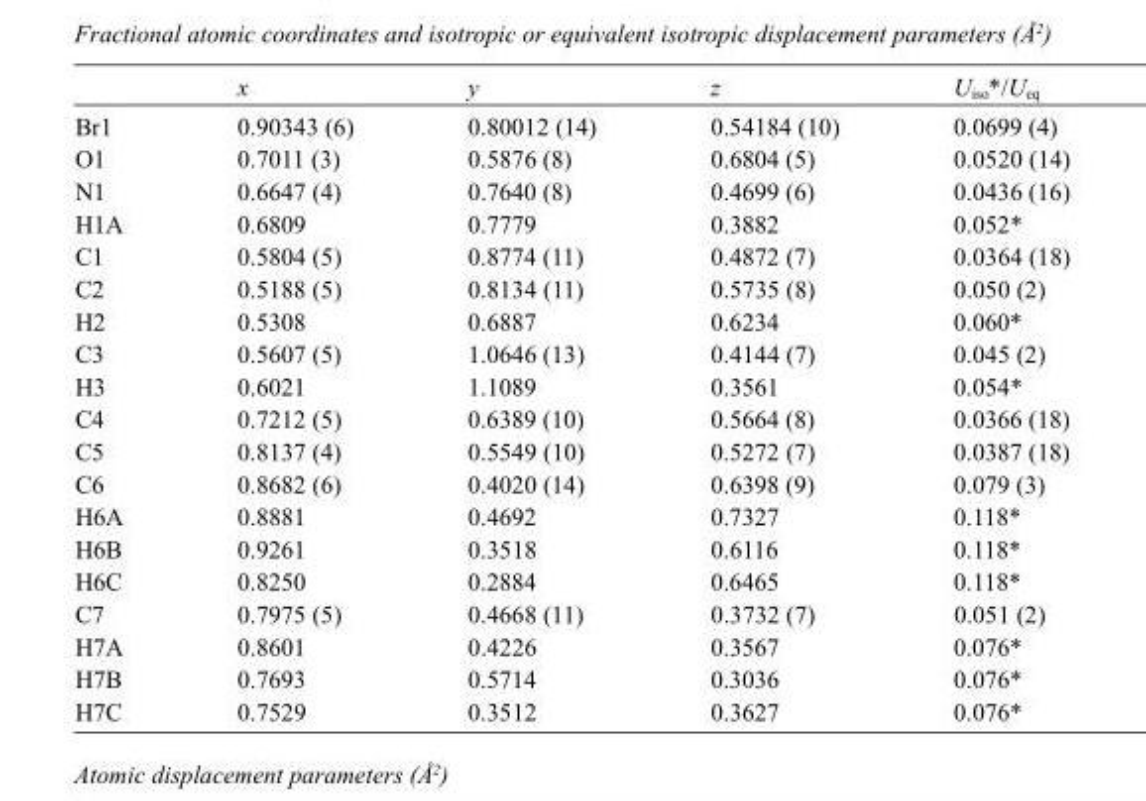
<table><thead><tr><td></td><td>x</td><td>y</td><td>z</td><td>U<sub>iso</sub>*/U<sub>eq</sub></td></tr></thead><tbody><tr><td>Br1</td><td>0.90343 (6)</td><td>0.80012 (14)</td><td>0.54184 (10)</td><td>0.0699 (4)</td></tr><tr><td>O1</td><td>0.7011 (3)</td><td>0.5876 (8)</td><td>0.6804 (5)</td><td>0.0520 (14)</td></tr><tr><td>N1</td><td>0.6647 (4)</td><td>0.7640 (8)</td><td>0.4699 (6)</td><td>0.0436 (16)</td></tr><tr><td>H1A</td><td>0.6809</td><td>0.7779</td><td>0.3882</td><td>0.052*</td></tr><tr><td>C1</td><td>0.5804 (5)</td><td>0.8774 (11)</td><td>0.4872 (7)</td><td>0.0364 (18)</td></tr><tr><td>C2</td><td>0.5188 (5)</td><td>0.8134 (11)</td><td>0.5735 (8)</td><td>0.050 (2)</td></tr><tr><td>H2</td><td>0.5308</td><td>0.6887</td><td>0.6234</td><td>0.060*</td></tr><tr><td>C3</td><td>0.5607 (5)</td><td>1.0646 (13)</td><td>0.4144 (7)</td><td>0.045 (2)</td></tr><tr><td>H3</td><td>0.6021</td><td>1.1089</td><td>0.3561</td><td>0.054*</td></tr><tr><td>C4</td><td>0.7212 (5)</td><td>0.6389 (10)</td><td>0.5664 (8)</td><td>0.0366 (18)</td></tr><tr><td>C5</td><td>0.8137 (4)</td><td>0.5549 (10)</td><td>0.5272 (7)</td><td>0.0387 (18)</td></tr><tr><td>C6</td><td>0.8682 (6)</td><td>0.4020 (14)</td><td>0.6398 (9)</td><td>0.079 (3)</td></tr><tr><td>H6A</td><td>0.8881</td><td>0.4692</td><td>0.7327</td><td>0.118*</td></tr><tr><td>H6B</td><td>0.9261</td><td>0.3518</td><td>0.6116</td><td>0.118*</td></tr><tr><td>H6C</td><td>0.8250</td><td>0.2884</td><td>0.6465</td><td>0.118*</td></tr><tr><td>C7</td><td>0.7975 (5)</td><td>0.4668 (11)</td><td>0.3732 (7)</td><td>0.051 (2)</td></tr><tr><td>H7A</td><td>0.8601</td><td>0.4226</td><td>0.3567</td><td>0.076*</td></tr><tr><td>H7B</td><td>0.7693</td><td>0.5714</td><td>0.3036</td><td>0.076*</td></tr><tr><td>H7C</td><td>0.7529</td><td>0.3512</td><td>0.3627</td><td>0.076*</td></tr></tbody></table>